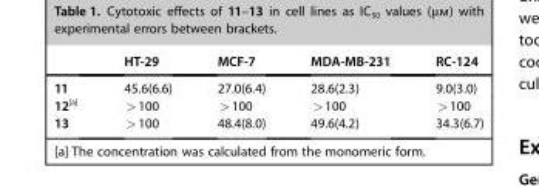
<table><thead><tr><td></td><td>HT-29</td><td>MCF-7</td><td>MDA-MB-231</td><td>RC-124</td></tr></thead><tbody><tr><td>11</td><td>45.6(6.6)</td><td>27.0(6.4)</td><td>28.6(2.3)</td><td>9.0(3.0)</td></tr><tr><td>12<sup>[a]</sup></td><td>&gt;100</td><td>&gt;100</td><td>&gt;100</td><td>&gt;100</td></tr><tr><td>13</td><td>&gt;100</td><td>48.4(8.0)</td><td>49.6(4.2)</td><td>34.3(6.7)</td></tr></tbody></table>